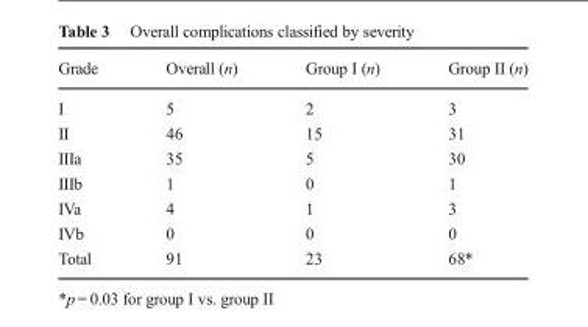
<table><thead><tr><td>Grade</td><td>Overall (n)</td><td>Group I (n)</td><td>Group II (n)</td></tr></thead><tbody><tr><td>I</td><td>5</td><td>2</td><td>3</td></tr><tr><td>II</td><td>46</td><td>15</td><td>31</td></tr><tr><td>IIIa</td><td>35</td><td>5</td><td>30</td></tr><tr><td>IIIb</td><td>1</td><td>0</td><td>1</td></tr><tr><td>IVa</td><td>4</td><td>1</td><td>3</td></tr><tr><td>IVb</td><td>0</td><td>0</td><td>0</td></tr><tr><td>Total</td><td>91</td><td>23</td><td>68*</td></tr></tbody></table>